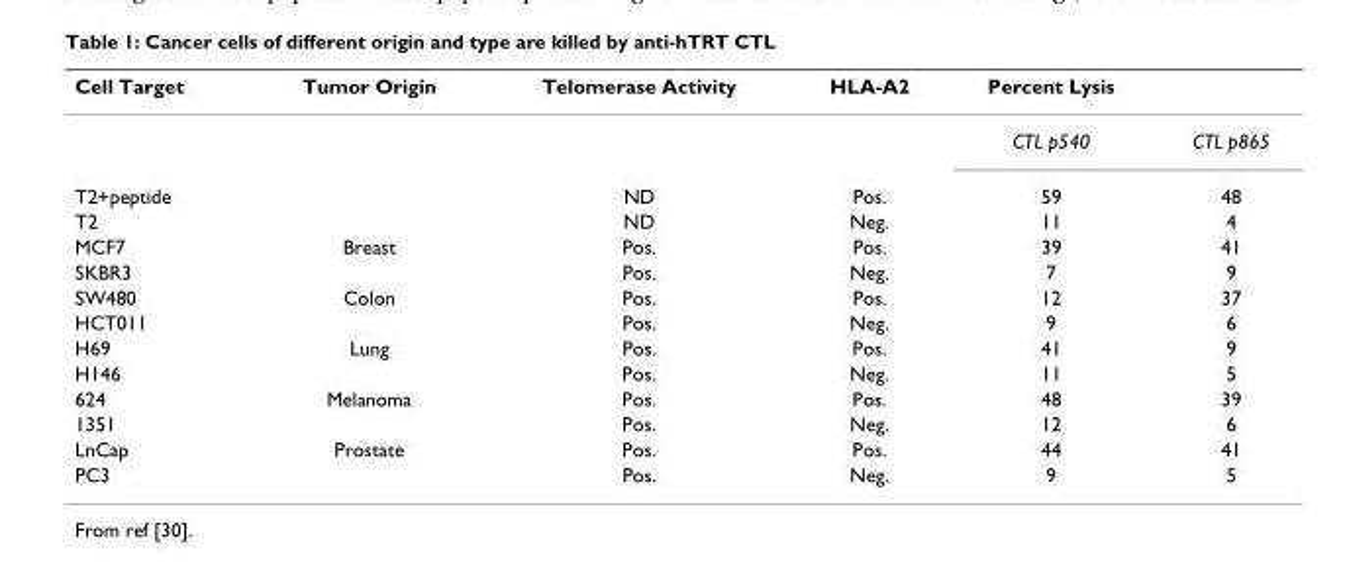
<table><thead><tr><td>Cell Target</td><td>Tumor Origin</td><td>Telomerase Activity</td><td>HLA-A2</td><td>Percent Lysis</td><td></td></tr></thead><tbody><tr><td></td><td></td><td></td><td></td><td>CTL p540</td><td>CTL p865</td></tr><tr><td>T2+peptide</td><td></td><td>ND</td><td>Pos.</td><td>59</td><td>48</td></tr><tr><td>T2</td><td></td><td>ND</td><td>Neg.</td><td>11</td><td>4</td></tr><tr><td>MCF7</td><td>Breast</td><td>Pos.</td><td>Pos.</td><td>39</td><td>41</td></tr><tr><td>SKBR3</td><td></td><td>Pos.</td><td>Neg.</td><td>7</td><td>9</td></tr><tr><td>SW480</td><td>Colon</td><td>Pos.</td><td>Pos.</td><td>12</td><td>37</td></tr><tr><td>HCT011</td><td></td><td>Pos.</td><td>Neg.</td><td>9</td><td>6</td></tr><tr><td>H69</td><td>Lung</td><td>Pos.</td><td>Pos.</td><td>41</td><td>9</td></tr><tr><td>H146</td><td></td><td>Pos.</td><td>Neg.</td><td>11</td><td>5</td></tr><tr><td>624</td><td>Melanoma</td><td>Pos.</td><td>Pos.</td><td>48</td><td>39</td></tr><tr><td>1351</td><td></td><td>Pos.</td><td>Neg.</td><td>12</td><td>6</td></tr><tr><td>LnCap</td><td>Prostate</td><td>Pos.</td><td>Pos.</td><td>44</td><td>41</td></tr><tr><td>PC3</td><td></td><td>Pos.</td><td>Neg.</td><td>9</td><td>5</td></tr></tbody></table>